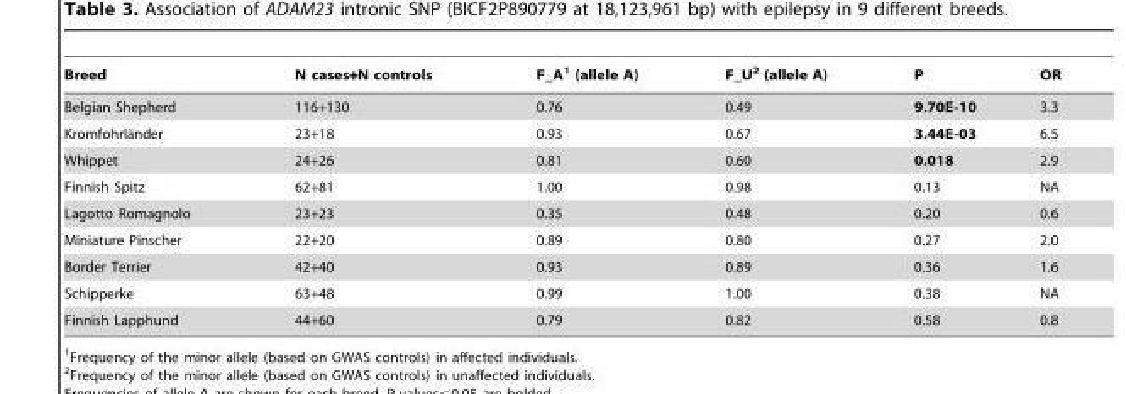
<table><thead><tr><td>Breed</td><td>N cases+N controls</td><td>F_A<sup>1</sup> (allele A)</td><td>F_U<sup>2</sup> (allele A)</td><td>P</td><td>OR</td></tr></thead><tbody><tr><td>Belgian Shepherd</td><td>116+130</td><td>0.76</td><td>0.49</td><td>9.70E-10</td><td>3.3</td></tr><tr><td>Kromfohrla¨nder</td><td>23+18</td><td>0.93</td><td>0.67</td><td>3.44E-03</td><td>6.5</td></tr><tr><td>Whippet</td><td>24+26</td><td>0.81</td><td>0.60</td><td>0.018</td><td>2.9</td></tr><tr><td>Finnish Spitz</td><td>62+81</td><td>1.00</td><td>0.98</td><td>0.13</td><td>NA</td></tr><tr><td>Lagotto Romagnolo</td><td>23+23</td><td>0.35</td><td>0.48</td><td>0.20</td><td>0.6</td></tr><tr><td>Miniature Pinscher</td><td>22+20</td><td>0.89</td><td>0.80</td><td>0.27</td><td>2.0</td></tr><tr><td>Border Terrier</td><td>42+40</td><td>0.93</td><td>0.89</td><td>0.36</td><td>1.6</td></tr><tr><td>Schipperke</td><td>63+48</td><td>0.99</td><td>1.00</td><td>0.38</td><td>NA</td></tr><tr><td>Finnish Lapphund</td><td>44+60</td><td>0.79</td><td>0.82</td><td>0.58</td><td>0.8</td></tr></tbody></table>